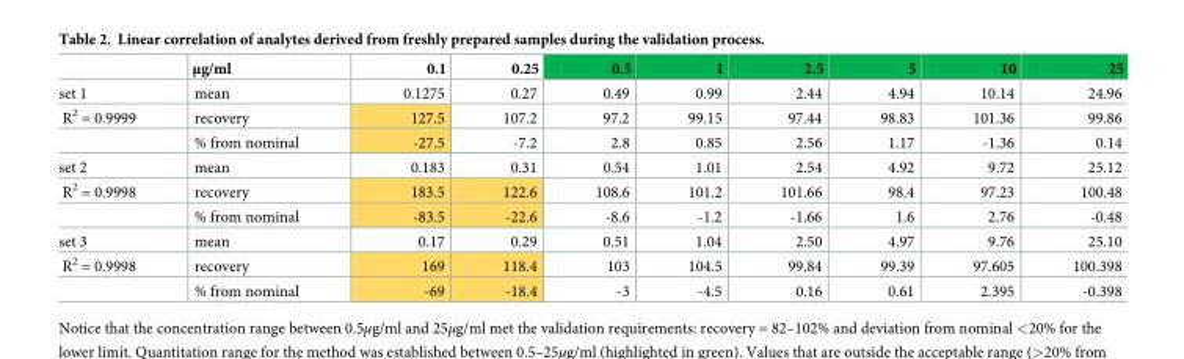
<table><thead><tr><td></td><td>μg/ml</td><td>0.1</td><td>0.25</td><td>0.5</td><td>1</td><td>2.5</td><td>5</td><td>10</td><td>25</td></tr></thead><tbody><tr><td>set 1</td><td>mean</td><td>0.1275</td><td>0.27</td><td>0.49</td><td>0.99</td><td>2.44</td><td>4.94</td><td>10.14</td><td>24.96</td></tr><tr><td rowspan="2">R<sup>2</sup> = 0.9999</td><td>recovery</td><td>127.5</td><td>107.2</td><td>97.2</td><td>99.15</td><td>97.44</td><td>98.83</td><td>101.36</td><td>99.86</td></tr><tr><td>% from nominal</td><td>-27.5</td><td>-7.2</td><td>2.8</td><td>0.85</td><td>2.56</td><td>1.17</td><td>-1.36</td><td>0.14</td></tr><tr><td>set 2</td><td>mean</td><td>0.183</td><td>0.31</td><td>0.54</td><td>1.01</td><td>2.54</td><td>4.92</td><td>9.72</td><td>25.12</td></tr><tr><td rowspan="2">R<sup>2</sup> = 0.9998</td><td>recovery</td><td>183.5</td><td>122.6</td><td>108.6</td><td>101.2</td><td>101.66</td><td>98.4</td><td>97.23</td><td>100.48</td></tr><tr><td>% from nominal</td><td>-83.5</td><td>-22.6</td><td>-8.6</td><td>-1.2</td><td>-1.66</td><td>1.6</td><td>2.76</td><td>-0.48</td></tr><tr><td>set 3</td><td>mean</td><td>0.17</td><td>0.29</td><td>0.51</td><td>1.04</td><td>2.50</td><td>4.97</td><td>9.76</td><td>25.10</td></tr><tr><td rowspan="2">R<sup>2</sup> = 0.9998</td><td>recovery</td><td>169</td><td>118.4</td><td>103</td><td>104.5</td><td>99.84</td><td>99.39</td><td>97.605</td><td>100.398</td></tr><tr><td>% from nominal</td><td>-69</td><td>-18.4</td><td>-3</td><td>-4.5</td><td>0.16</td><td>0.61</td><td>2.395</td><td>-0.398</td></tr></tbody></table>